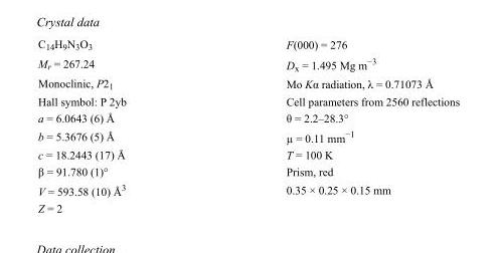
<table><tbody><tr><td>C<sub>14</sub>H<sub>9</sub>N<sub>3</sub>O<sub>3</sub></td><td>F(000) = 276</td></tr><tr><td>M<sub>r</sub> = 267.24</td><td>D<sub>x</sub> = 1.495 Mg m<sup>−3</sup></td></tr><tr><td>Monoclinic, P2<sub>1</sub></td><td>Mo Kα radiation, λ = 0.71073 Å</td></tr><tr><td>Hall symbol: P 2yb</td><td>Cell parameters from 2560 reflections</td></tr><tr><td>a = 6.0643 (6) Å</td><td>θ = 2.2–28.3°</td></tr><tr><td>b = 5.3676 (5) Å</td><td>µ = 0.11 mm<sup>−1</sup></td></tr><tr><td>c = 18.2443 (17) Å</td><td>T = 100 K</td></tr><tr><td>β = 91.780 (1)°</td><td>Prism, red</td></tr><tr><td>V = 593.58 (10) Å<sup>3</sup></td><td>0.35 × 0.25 × 0.15 mm</td></tr><tr><td>Z = 2</td><td></td></tr></tbody></table>